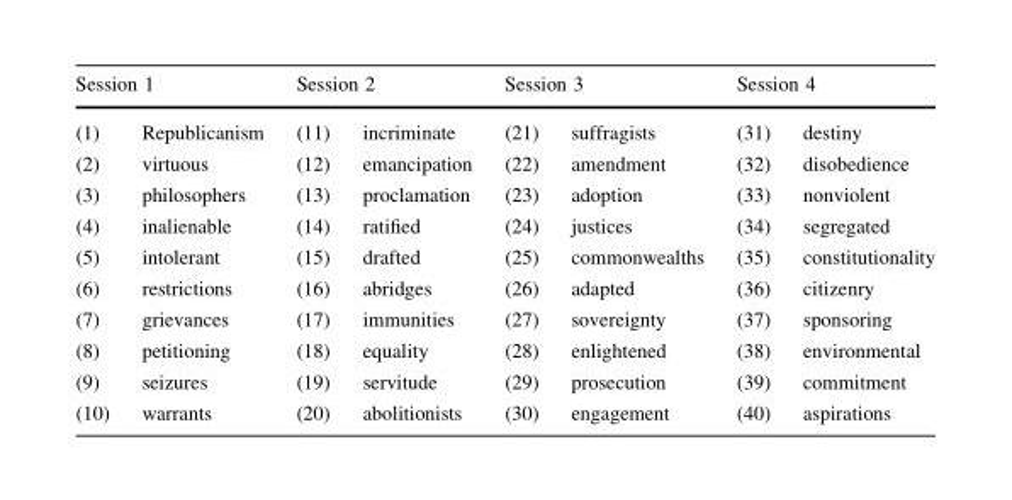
<table><thead><tr><td colspan="2">Session 1</td><td colspan="2">Session 2</td><td colspan="2">Session 3</td><td colspan="2">Session 4</td></tr><tr><td>(1)</td><td>Republicanism</td><td>(11)</td><td>incriminate</td><td>(21)</td><td>suffragists</td><td>(31)</td><td>destiny</td></tr></thead><tbody><tr><td>(2)</td><td>virtuous</td><td>(12)</td><td>emancipation</td><td>(22)</td><td>amendment</td><td>(32)</td><td>disobedience</td></tr><tr><td>(3)</td><td>philosophers</td><td>(13)</td><td>proclamation</td><td>(23)</td><td>adoption</td><td>(33)</td><td>nonviolent</td></tr><tr><td>(4)</td><td>inalienable</td><td>(14)</td><td>ratified</td><td>(24)</td><td>justices</td><td>(34)</td><td>segregated</td></tr><tr><td>(5)</td><td>intolerant</td><td>(15)</td><td>drafted</td><td>(25)</td><td>commonwealths</td><td>(35)</td><td>constitutionality</td></tr><tr><td>(6)</td><td>restrictions</td><td>(16)</td><td>abridges</td><td>(26)</td><td>adapted</td><td>(36)</td><td>citizenry</td></tr><tr><td>(7)</td><td>grievances</td><td>(17)</td><td>immunities</td><td>(27)</td><td>sovereignty</td><td>(37)</td><td>sponsoring</td></tr><tr><td>(8)</td><td>petitioning</td><td>(18)</td><td>equality</td><td>(28)</td><td>enlightened</td><td>(38)</td><td>environmental</td></tr><tr><td>(9)</td><td>seizures</td><td>(19)</td><td>servitude</td><td>(29)</td><td>prosecution</td><td>(39)</td><td>commitment</td></tr><tr><td>(10)</td><td>warrants</td><td>(20)</td><td>abolitionists</td><td>(30)</td><td>engagement</td><td>(40)</td><td>aspirations</td></tr></tbody></table>